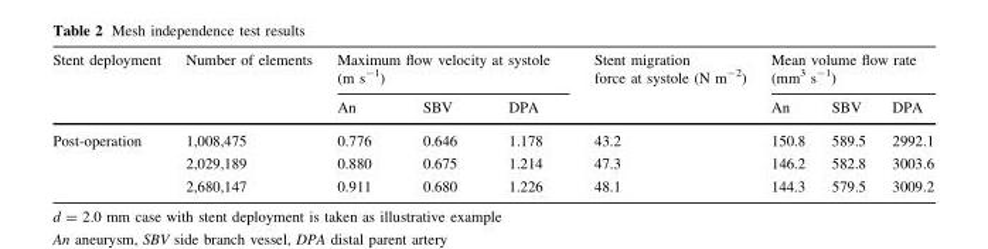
<table><thead><tr><td rowspan="2">Stent deployment</td><td rowspan="2">Number of elements</td><td colspan="3">Maximum flow velocity at systole (m s<sup>-1</sup>)</td><td rowspan="2">Stent migration force at systole (N m<sup>-2</sup>)</td><td colspan="3">Mean volume flow rate (mm<sup>3</sup> s<sup>-1</sup>)</td></tr><tr><td>An</td><td>SBV</td><td>DPA</td><td>An</td><td>SBV</td><td>DPA</td></tr></thead><tbody><tr><td rowspan="3">Post-operation</td><td>1,008,475</td><td>0.776</td><td>0.646</td><td>1.178</td><td>43.2</td><td>150.8</td><td>589.5</td><td>2992.1</td></tr><tr><td>2,029,189</td><td>0.880</td><td>0.675</td><td>1.214</td><td>47.3</td><td>146.2</td><td>582.8</td><td>3003.6</td></tr><tr><td>2,680,147</td><td>0.911</td><td>0.680</td><td>1.226</td><td>48.1</td><td>144.3</td><td>579.5</td><td>3009.2</td></tr></tbody></table>